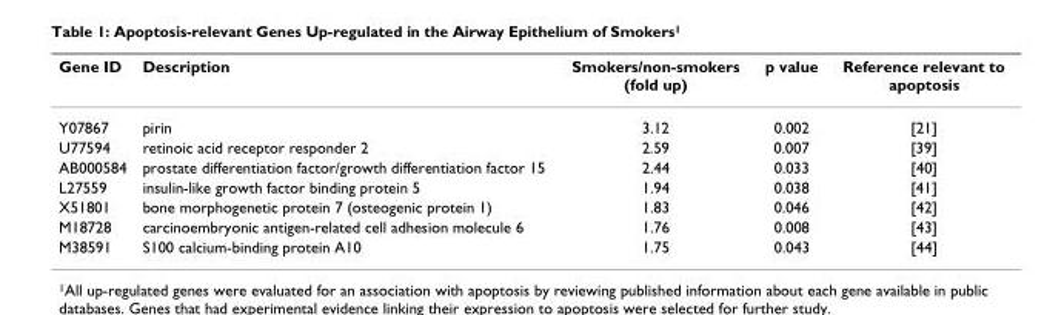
<table><thead><tr><td>Gene ID</td><td>Description</td><td>Smokers/non-smokers (fold up)</td><td>p value</td><td>Reference relevant to apoptosis</td></tr></thead><tbody><tr><td>Y07867</td><td>pirin</td><td>3.12</td><td>0.002</td><td>[21]</td></tr><tr><td>U77594</td><td>retinoic acid receptor responder 2</td><td>2.59</td><td>0.007</td><td>[39]</td></tr><tr><td>AB000584</td><td>prostate differentiation factor/growth differentiation factor 15</td><td>2.44</td><td>0.033</td><td>[40]</td></tr><tr><td>L27559</td><td>insulin-like growth factor binding protein 5</td><td>1.94</td><td>0.038</td><td>[41]</td></tr><tr><td>X51801</td><td>bone morphogenetic protein 7 (osteogenic protein 1)</td><td>1.83</td><td>0.046</td><td>[42]</td></tr><tr><td>M18728</td><td>carcinoembryonic antigen-related cell adhesion molecule 6</td><td>1.76</td><td>0.008</td><td>[43]</td></tr><tr><td>M38591</td><td>S100 calcium-binding protein A10</td><td>1.75</td><td>0.043</td><td>[44]</td></tr></tbody></table>